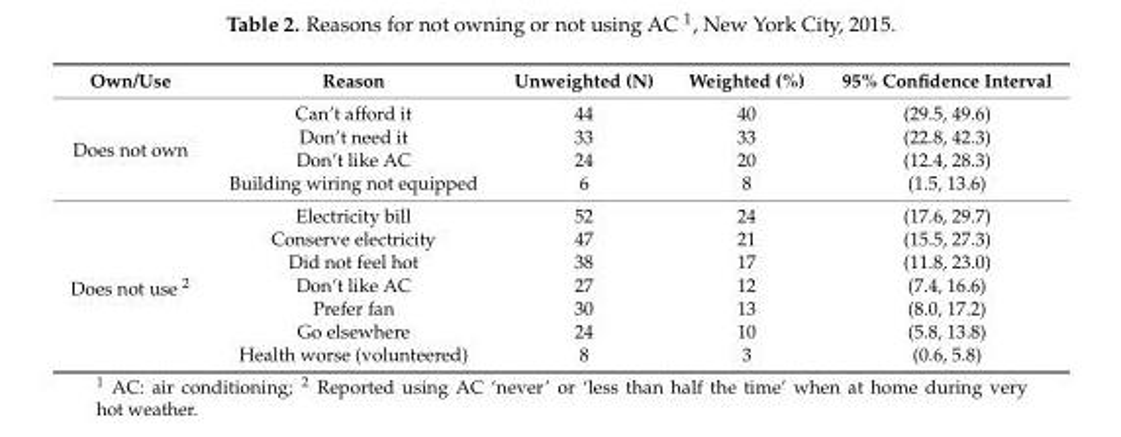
<table><thead><tr><td>Own/Use</td><td>Reason</td><td>Unweighted (N)</td><td>Weighted (%)</td><td>95% Confidence Interval</td></tr></thead><tbody><tr><td rowspan="4">Does not own</td><td>Can’t afford it</td><td>44</td><td>40</td><td>(29.5, 49.6)</td></tr><tr><td>Don’t need it</td><td>33</td><td>33</td><td>(22.8, 42.3)</td></tr><tr><td>Don’t like AC</td><td>24</td><td>20</td><td>(12.4, 28.3)</td></tr><tr><td>Building wiring not equipped</td><td>6</td><td>8</td><td>(1.5, 13.6)</td></tr><tr><td rowspan="7">Does not use <sup>2</sup></td><td>Electricity bill</td><td>52</td><td>24</td><td>(17.6, 29.7)</td></tr><tr><td>Conserve electricity</td><td>47</td><td>21</td><td>(15.5, 27.3)</td></tr><tr><td>Did not feel hot</td><td>38</td><td>17</td><td>(11.8, 23.0)</td></tr><tr><td>Don’t like AC</td><td>27</td><td>12</td><td>(7.4, 16.6)</td></tr><tr><td>Prefer fan</td><td>30</td><td>13</td><td>(8.0, 17.2)</td></tr><tr><td>Go elsewhere</td><td>24</td><td>10</td><td>(5.8, 13.8)</td></tr><tr><td>Health worse (volunteered)</td><td>8</td><td>3</td><td>(0.6, 5.8)</td></tr></tbody></table>